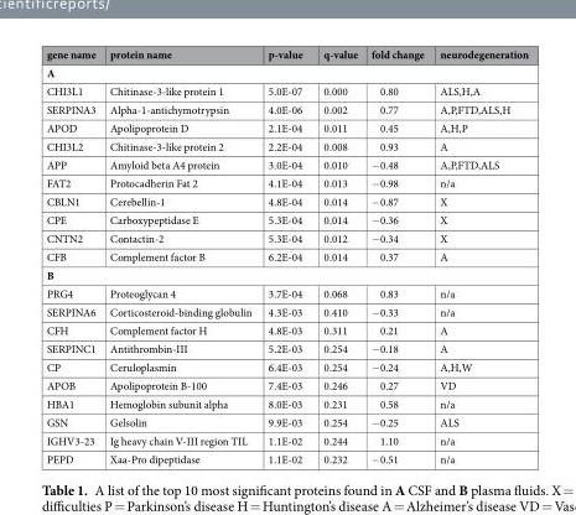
<table><thead><tr><td>gene name</td><td>protein name</td><td>p-value</td><td>q-value</td><td>fold change</td><td>neurodegeneration</td></tr></thead><tbody><tr><td colspan="6">A</td></tr><tr><td>CHI3L1</td><td>Chitinase-3-like protein 1</td><td>5.0E-07</td><td>0.000</td><td>0.80</td><td>ALS,H,A</td></tr><tr><td>SERPINA3</td><td>Alpha-1-antichymotrypsin</td><td>4.0E-06</td><td>0.002</td><td>0.77</td><td>A,P,FTD,ALS,H</td></tr><tr><td>APOD</td><td>Apolipoprotein D</td><td>2.1E-04</td><td>0.011</td><td>0.45</td><td>A,H,P</td></tr><tr><td>CHI3L2</td><td>Chitinase-3-like protein 2</td><td>2.2E-04</td><td>0.008</td><td>0.93</td><td>A</td></tr><tr><td>APP</td><td>Amyloid beta A4 protein</td><td>3.0E-04</td><td>0.010</td><td>−0.48</td><td>A,P,FTD,ALS</td></tr><tr><td>FAT2</td><td>Protocadherin Fat 2</td><td>4.1E-04</td><td>0.013</td><td>−0.98</td><td>n/a</td></tr><tr><td>CBLN1</td><td>Cerebellin-1</td><td>4.8E-04</td><td>0.014</td><td>−0.87</td><td>X</td></tr><tr><td>CPE</td><td>Carboxypeptidase E</td><td>5.3E-04</td><td>0.014</td><td>−0.36</td><td>X</td></tr><tr><td>CNTN2</td><td>Contactin-2</td><td>5.3E-04</td><td>0.012</td><td>−0.34</td><td>X</td></tr><tr><td>CFB</td><td>Complement factor B</td><td>6.2E-04</td><td>0.014</td><td>0.37</td><td>A</td></tr><tr><td colspan="6">B</td></tr><tr><td>PRG4</td><td>Proteoglycan 4</td><td>3.7E-04</td><td>0.068</td><td>0.83</td><td>n/a</td></tr><tr><td>SERPINA6</td><td>Corticosteroid-binding globulin</td><td>4.3E-03</td><td>0.410</td><td>−0.33</td><td>n/a</td></tr><tr><td>CFH</td><td>Complement factor H</td><td>4.8E-03</td><td>0.311</td><td>0.21</td><td>A</td></tr><tr><td>SERPINC1</td><td>Antithrombin-III</td><td>5.2E-03</td><td>0.254</td><td>−0.18</td><td>A</td></tr><tr><td>CP</td><td>Ceruloplasmin</td><td>6.4E-03</td><td>0.254</td><td>−0.24</td><td>A,H,W</td></tr><tr><td>APOB</td><td>Apolipoprotein B-100</td><td>7.4E-03</td><td>0.246</td><td>0.27</td><td>VD</td></tr><tr><td>HBA1</td><td>Hemoglobin subunit alpha</td><td>8.0E-03</td><td>0.231</td><td>0.58</td><td>n/a</td></tr><tr><td>GSN</td><td>Gelsolin</td><td>9.9E-03</td><td>0.254</td><td>−0.25</td><td>ALS</td></tr><tr><td>IGHV3-23</td><td>Ig heavy chain V-III region TIL</td><td>1.1E-02</td><td>0.244</td><td>1.10</td><td>n/a</td></tr><tr><td>PEPD</td><td>Xaa-Pro dipeptidase</td><td>1.1E-02</td><td>0.232</td><td>−0.51</td><td>n/a</td></tr></tbody></table>